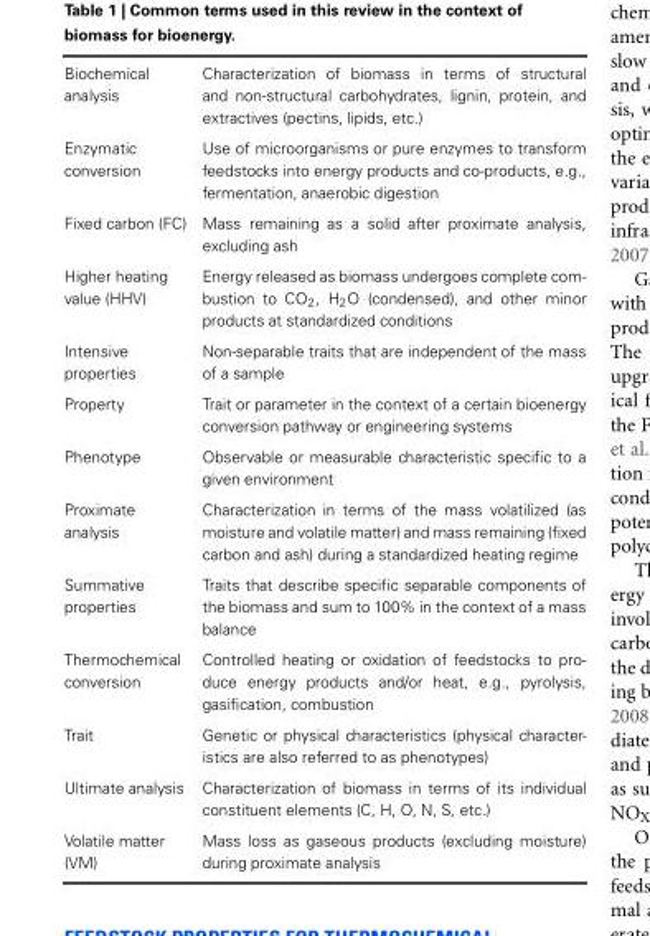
<table><tbody><tr><td>Biochemical analysis</td><td>Characterization of biomass in terms of structural and non-structural carbohydrates, lignin, protein, and extractives (pectins, lipids, etc.)</td></tr><tr><td>Enzymatic conversion</td><td>Use of microorganisms or pure enzymes to transform feedstocks into energy products and co-products, e.g., fermentation, anaerobic digestion</td></tr><tr><td>Fixed carbon (FC)</td><td>Mass remaining as a solid after proximate analysis, excluding ash</td></tr><tr><td>Higher heating value (HHV)</td><td>Energy released as biomass undergoes complete com- bustion to CO2, H2O (condensed), and other minor products at standardized conditions</td></tr><tr><td>Intensive properties</td><td>Non-separable traits that are independent of the mass of a sample</td></tr><tr><td>Property</td><td>Trait or parameter in the context of a certain bioenergy conversion pathway or engineering systems</td></tr><tr><td>Phenotype</td><td>Observable or measurable characteristic specific to a given environment</td></tr><tr><td>Proximate analysis</td><td>Characterization in terms of the mass volatilized (as moisture and volatile matter) and mass remaining (fixed carbon and ash) during a standardized heating regime</td></tr><tr><td>Summative properties</td><td>Traits that describe specific separable components of the biomass and sum to 100% in the context of a mass balance</td></tr><tr><td>Thermochemical conversion</td><td>Controlled heating or oxidation of feedstocks to pro- duce energy products and/or heat, e.g., pyrolysis, gasification, combustion</td></tr><tr><td>Trait</td><td>Genetic or physical characteristics (physical character- istics are also referred to as phenotypes)</td></tr><tr><td>Ultimate analysis</td><td>Characterization of biomass in terms of its individual constituent elements (C, H, O, N, S, etc.)</td></tr><tr><td>Volatile matter (VM)</td><td>Mass loss as gaseous products (excluding moisture) during proximate analysis</td></tr></tbody></table>